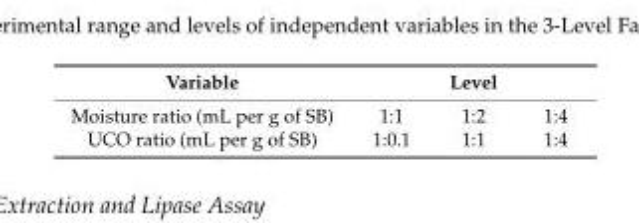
<table><thead><tr><td rowspan="2">Variable Moisture ratio (mL per g of SB)</td><td colspan="3">Level</td></tr><tr><td>1:1</td><td>1:2</td><td>1:4</td></tr></thead><tbody><tr><td>UCO ratio (mL per g of SB)</td><td>1:0.1</td><td>1:1</td><td>1:4</td></tr></tbody></table>